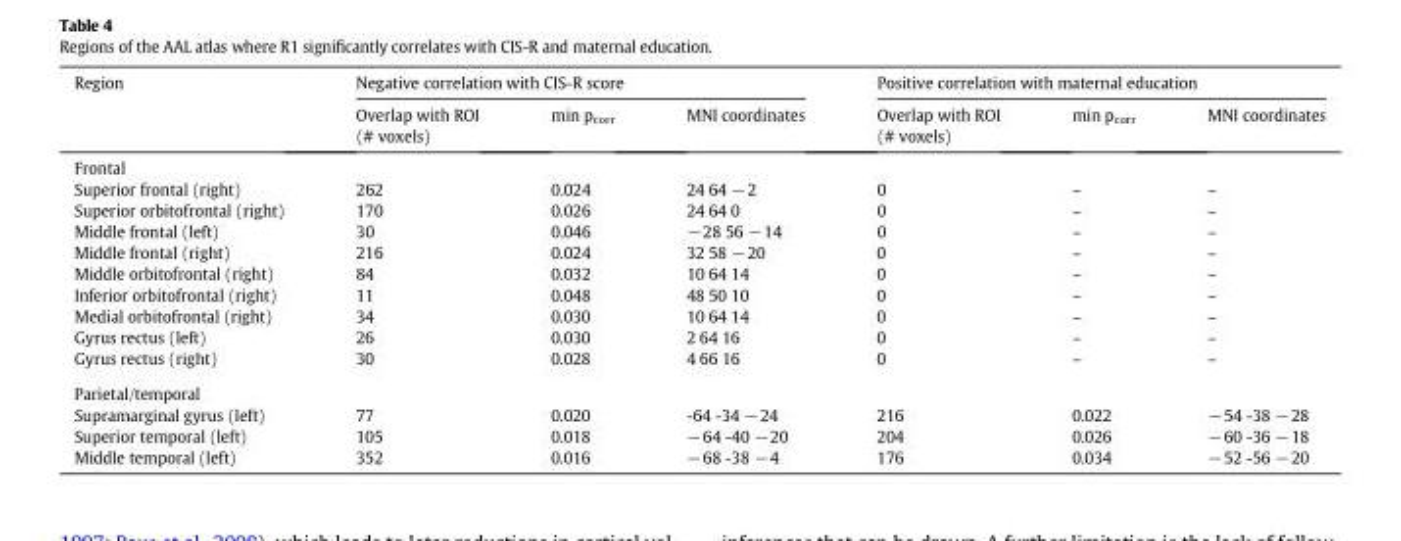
<table><thead><tr><td rowspan="2">Region</td><td colspan="3">Negative correlation with CIS-R score</td><td colspan="3">Positive correlation with maternal education</td></tr><tr><td>Overlap with ROI (# voxels)</td><td>min p<sub>corr</sub></td><td>MNI coordinates</td><td>Overlap with ROI (# voxels)</td><td>min p<sub>corr</sub></td><td>MNI coordinates</td></tr></thead><tbody><tr><td colspan="7">Frontal</td></tr><tr><td>Superior frontal (right)</td><td>262</td><td>0.024</td><td>24 64 −2</td><td>0</td><td>–</td><td>–</td></tr><tr><td>Superior orbitofrontal (right)</td><td>170</td><td>0.026</td><td>24 64 0</td><td>0</td><td>–</td><td>–</td></tr><tr><td>Middle frontal (left)</td><td>30</td><td>0.046</td><td>−28 56 −14</td><td>0</td><td>–</td><td>–</td></tr><tr><td>Middle frontal (right)</td><td>216</td><td>0.024</td><td>32 58 −20</td><td>0</td><td>–</td><td>–</td></tr><tr><td>Middle orbitofrontal (right)</td><td>84</td><td>0.032</td><td>10 64 14</td><td>0</td><td>–</td><td>–</td></tr><tr><td>Inferior orbitofrontal (right)</td><td>11</td><td>0.048</td><td>48 50 10</td><td>0</td><td>–</td><td>–</td></tr><tr><td>Medial orbitofrontal (right)</td><td>34</td><td>0.030</td><td>10 64 14</td><td>0</td><td>–</td><td>–</td></tr><tr><td>Gyrus rectus (left)</td><td>26</td><td>0.030</td><td>2 64 16</td><td>0</td><td>–</td><td>–</td></tr><tr><td>Gyrus rectus (right)</td><td>30</td><td>0.028</td><td>4 66 16</td><td>0</td><td>–</td><td>–</td></tr><tr><td colspan="7">Parietal/temporal</td></tr><tr><td>Supramarginal gyrus (left)</td><td>77</td><td>0.020</td><td>-64 -34 −24</td><td>216</td><td>0.022</td><td>−54 -38 −28</td></tr><tr><td>Superior temporal (left)</td><td>105</td><td>0.018</td><td>−64 -40 −20</td><td>204</td><td>0.026</td><td>−60 -36 −18</td></tr><tr><td>Middle temporal (left)</td><td>352</td><td>0.016</td><td>−68 -38 −4</td><td>176</td><td>0.034</td><td>−52 -56 −20</td></tr></tbody></table>